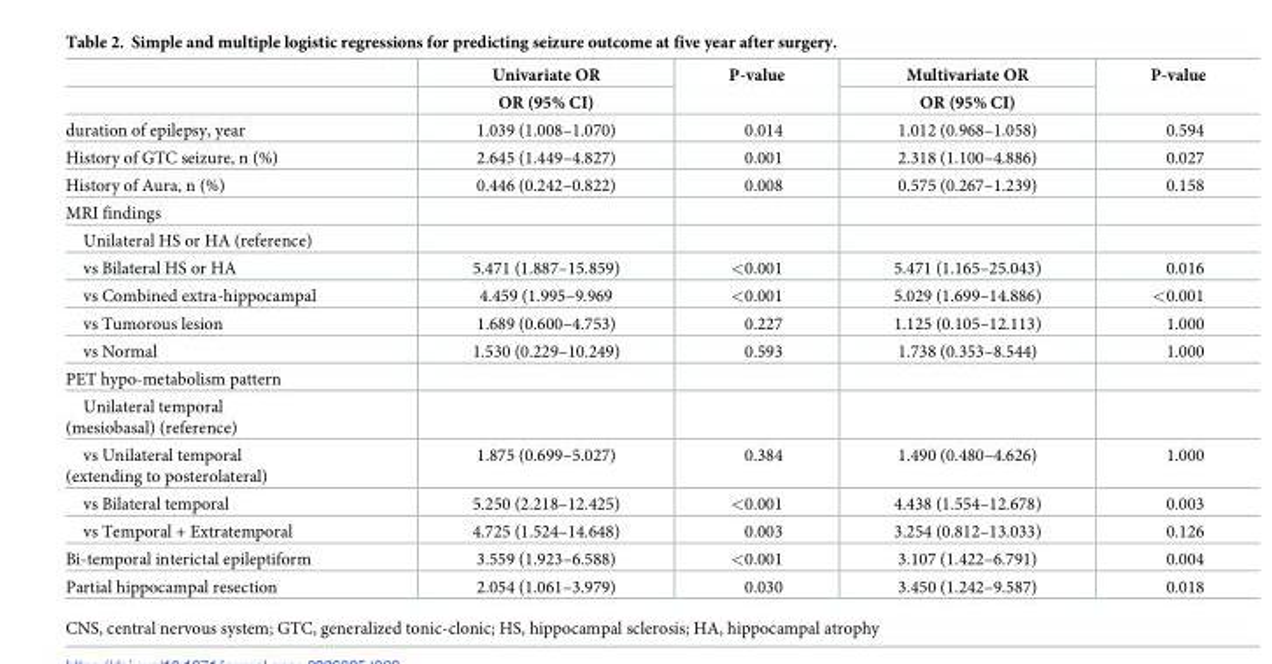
<table><thead><tr><td rowspan="2"></td><td rowspan="2">Univariate OR OR (95% CI)</td><td rowspan="2">P-value</td><td rowspan="2">Multivariate OR OR (95% CI)</td><td rowspan="2">P-value</td></tr><tr></tr></thead><tbody><tr><td>duration of epilepsy, year</td><td>1.039 (1.008–1.070)</td><td>0.014</td><td>1.012 (0.968–1.058)</td><td>0.594</td></tr><tr><td>History of GTC seizure, n (%)</td><td>2.645 (1.449–4.827)</td><td>0.001</td><td>2.318 (1.100–4.886)</td><td>0.027</td></tr><tr><td>History of Aura, n (%)</td><td>0.446 (0.242–0.822)</td><td>0.008</td><td>0.575 (0.267–1.239)</td><td>0.158</td></tr><tr><td colspan="5">MRI findings</td></tr><tr><td colspan="5">Unilateral HS or HA (reference)</td></tr><tr><td>vs Bilateral HS or HA</td><td>5.471 (1.887–15.859)</td><td>&lt;0.001</td><td>5.471 (1.165–25.043)</td><td>0.016</td></tr><tr><td>vs Combined extra-hippocampal</td><td>4.459 (1.995–9.969</td><td>&lt;0.001</td><td>5.029 (1.699–14.886)</td><td>&lt;0.001</td></tr><tr><td>vs Tumorous lesion</td><td>1.689 (0.600–4.753)</td><td>0.227</td><td>1.125 (0.105–12.113)</td><td>1.000</td></tr><tr><td>vs Normal</td><td>1.530 (0.229–10.249)</td><td>0.593</td><td>1.738 (0.353–8.544)</td><td>1.000</td></tr><tr><td colspan="5">PET hypo-metabolism pattern</td></tr><tr><td colspan="5">Unilateral temporal (mesiobasal) (reference)</td></tr><tr><td>vs Unilateral temporal (extending to posterolateral)</td><td>1.875 (0.699–5.027)</td><td>0.384</td><td>1.490 (0.480–4.626)</td><td>1.000</td></tr><tr><td>vs Bilateral temporal</td><td>5.250 (2.218–12.425)</td><td>&lt;0.001</td><td>4.438 (1.554–12.678)</td><td>0.003</td></tr><tr><td>vs Temporal + Extratemporal</td><td>4.725 (1.524–14.648)</td><td>0.003</td><td>3.254 (0.812–13.033)</td><td>0.126</td></tr><tr><td>Bi-temporal interictal epileptiform</td><td>3.559 (1.923–6.588)</td><td>&lt;0.001</td><td>3.107 (1.422–6.791)</td><td>0.004</td></tr><tr><td>Partial hippocampal resection</td><td>2.054 (1.061–3.979)</td><td>0.030</td><td>3.450 (1.242–9.587)</td><td>0.018</td></tr></tbody></table>